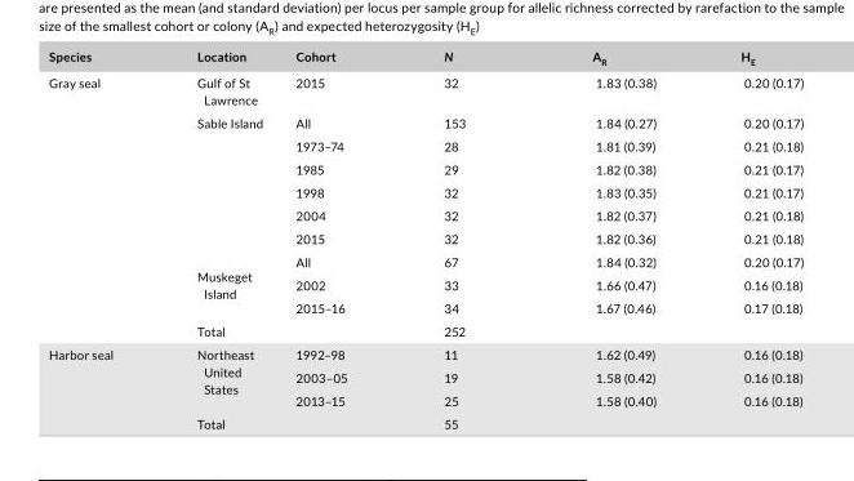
<table><thead><tr><td>Species</td><td>Location</td><td>Cohort</td><td>N</td><td>A<sub>R</sub></td><td>H<sub>E</sub></td></tr></thead><tbody><tr><td rowspan="11">Gray seal</td><td>Gulf of St Lawrence</td><td>2015</td><td>32</td><td>1.83 (0.38)</td><td>0.20 (0.17)</td></tr><tr><td>Sable Island</td><td>All</td><td>153</td><td>1.84 (0.27)</td><td>0.20 (0.17)</td></tr><tr><td></td><td>1973–74</td><td>28</td><td>1.81 (0.39)</td><td>0.21 (0.18)</td></tr><tr><td></td><td>1985</td><td>29</td><td>1.82 (0.38)</td><td>0.21 (0.17)</td></tr><tr><td></td><td>1998</td><td>32</td><td>1.83 (0.35)</td><td>0.21 (0.17)</td></tr><tr><td></td><td>2004</td><td>32</td><td>1.82 (0.37)</td><td>0.21 (0.18)</td></tr><tr><td></td><td>2015</td><td>32</td><td>1.82 (0.36)</td><td>0.21 (0.18)</td></tr><tr><td rowspan="3">Muskeget Island</td><td>All</td><td>67</td><td>1.84 (0.32)</td><td>0.20 (0.17)</td></tr><tr><td>2002</td><td>33</td><td>1.66 (0.47)</td><td>0.16 (0.18)</td></tr><tr><td>2015–16</td><td>34</td><td>1.67 (0.46)</td><td>0.17 (0.18)</td></tr><tr><td>Total</td><td></td><td>252</td><td></td><td></td></tr><tr><td rowspan="4">Harbor seal</td><td rowspan="3">Northeast United States</td><td>1992–98</td><td>11</td><td>1.62 (0.49)</td><td>0.16 (0.18)</td></tr><tr><td>2003–05</td><td>19</td><td>1.58 (0.42)</td><td>0.16 (0.18)</td></tr><tr><td>2013–15</td><td>25</td><td>1.58 (0.40)</td><td>0.16 (0.18)</td></tr><tr><td>Total</td><td></td><td>55</td><td></td><td></td></tr></tbody></table>